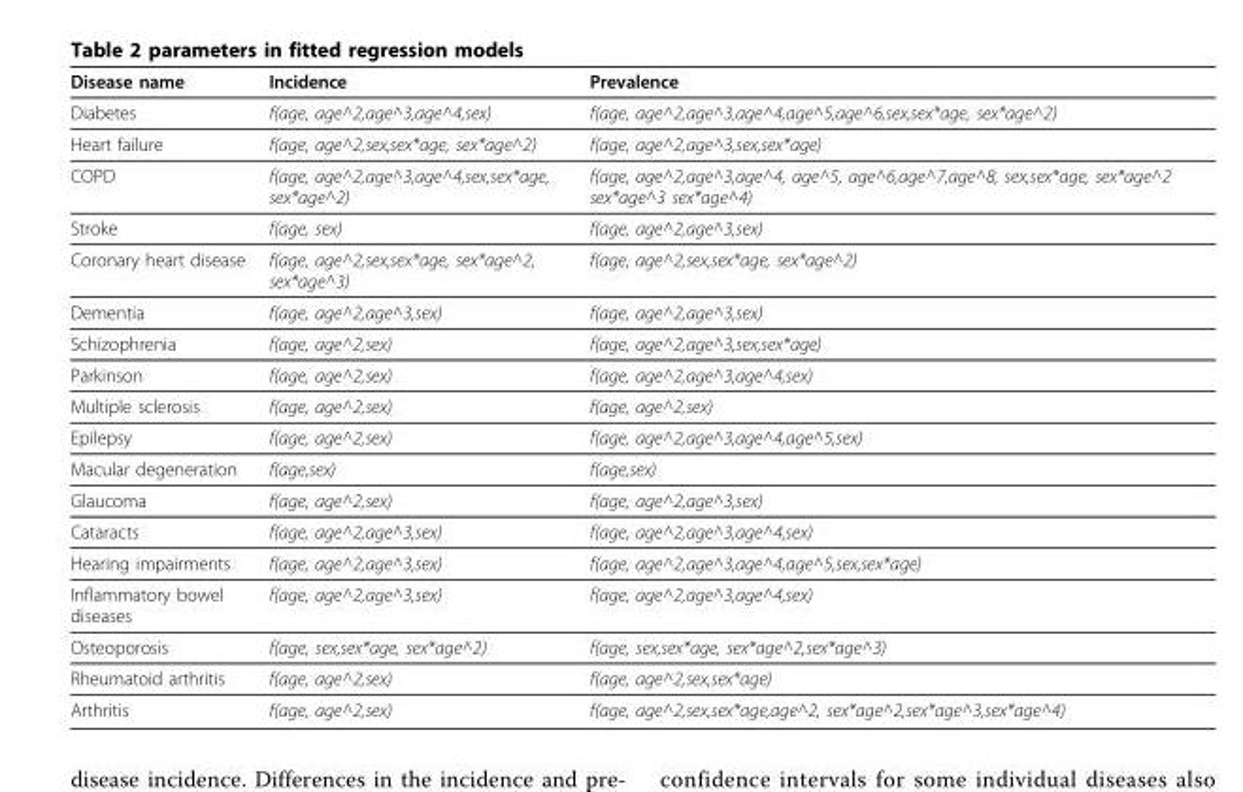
<table><thead><tr><td>Disease name</td><td>Incidence</td><td>Prevalence</td></tr></thead><tbody><tr><td>Diabetes</td><td>f(age, age^2,age^3,age^4,sex)</td><td>f(age, age^2,age^3,age^4,age^5,age^6,sex,sex*age, sex*age^2)</td></tr><tr><td>Heart failure</td><td>f(age, age^2,sex,sex*age, sex*age^2)</td><td>f(age, age^2,age^3,sex,sex*age)</td></tr><tr><td>COPD</td><td>f(age, age^2,age^3,age^4,sex,sex*age, sex*age^2)</td><td>f(age, age^2,age^3,age^4, age^5, age^6,age^7,age^8, sex,sex*age, sex*age^2 sex*age^3 sex*age^4)</td></tr><tr><td>Stroke</td><td>f(age, sex)</td><td>f(age, age^2,age^3,sex)</td></tr><tr><td>Coronary heart disease</td><td>f(age, age^2,sex,sex*age, sex*age^2, sex*age^3)</td><td>f(age, age^2,sex,sex*age, sex*age^2)</td></tr><tr><td>Dementia</td><td>f(age, age^2,age^3,sex)</td><td>f(age, age^2,age^3,sex)</td></tr><tr><td>Schizophrenia</td><td>f(age, age^2,sex)</td><td>f(age, age^2,age^3,sex,sex*age)</td></tr><tr><td>Parkinson</td><td>f(age, age^2,sex)</td><td>f(age, age^2,age^3,age^4,sex)</td></tr><tr><td>Multiple sclerosis</td><td>f(age, age^2,sex)</td><td>f(age, age^2,sex)</td></tr><tr><td>Epilepsy</td><td>f(age, age^2,sex)</td><td>f(age, age^2,age^3,age^4,age^5,sex)</td></tr><tr><td>Macular degeneration</td><td>f(age,sex)</td><td>f(age,sex)</td></tr><tr><td>Glaucoma</td><td>f(age, age^2,sex)</td><td>f(age, age^2,age^3,sex)</td></tr><tr><td>Cataracts</td><td>f(age, age^2,age^3,sex)</td><td>f(age, age^2,age^3,age^4,sex)</td></tr><tr><td>Hearing impairments</td><td>f(age, age^2,age^3,sex)</td><td>f(age, age^2,age^3,age^4,age^5,sex,sex*age)</td></tr><tr><td>Inflammatory bowel diseases</td><td>f(age, age^2,age^3,sex)</td><td>f(age, age^2,age^3,age^4,sex)</td></tr><tr><td>Osteoporosis</td><td>f(age, sex,sex*age, sex*age^2)</td><td>f(age, sex,sex*age, sex*age^2,sex*age^3)</td></tr><tr><td>Rheumatoid arthritis</td><td>f(age, age^2,sex)</td><td>f(age, age^2,sex,sex*age)</td></tr><tr><td>Arthritis</td><td>f(age, age^2,sex)</td><td>f(age, age^2,sex,sex*age,age^2, sex*age^2,sex*age^3,sex*age^4)</td></tr></tbody></table>